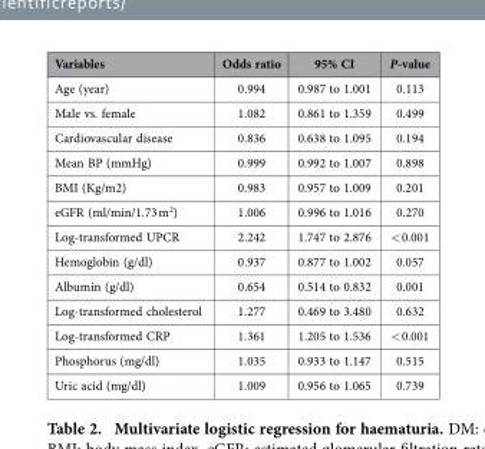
<table><thead><tr><td>Variables</td><td>Odds ratio</td><td>95% CI</td><td>P-value</td></tr></thead><tbody><tr><td>Age (year)</td><td>0.994</td><td>0.987 to 1.001</td><td>0.113</td></tr><tr><td>Male vs. female</td><td>1.082</td><td>0.861 to 1.359</td><td>0.499</td></tr><tr><td>Cardiovascular disease</td><td>0.836</td><td>0.638 to 1.095</td><td>0.194</td></tr><tr><td>Mean BP (mmHg)</td><td>0.999</td><td>0.992 to 1.007</td><td>0.898</td></tr><tr><td>BMI (Kg/m2)</td><td>0.983</td><td>0.957 to 1.009</td><td>0.201</td></tr><tr><td>eGFR (ml/min/1.73 m<sup>2</sup>)</td><td>1.006</td><td>0.996 to 1.016</td><td>0.270</td></tr><tr><td>Log-transformed UPCR</td><td>2.242</td><td>1.747 to 2.876</td><td>&lt; 0.001</td></tr><tr><td>Hemoglobin (g/dl)</td><td>0.937</td><td>0.877 to 1.002</td><td>0.057</td></tr><tr><td>Albumin (g/dl)</td><td>0.654</td><td>0.514 to 0.832</td><td>0.001</td></tr><tr><td>Log-transformed cholesterol</td><td>1.277</td><td>0.469 to 3.480</td><td>0.632</td></tr><tr><td>Log-transformed CRP</td><td>1.361</td><td>1.205 to 1.536</td><td>&lt; 0.001</td></tr><tr><td>Phosphorus (mg/dl)</td><td>1.035</td><td>0.933 to 1.147</td><td>0.515</td></tr><tr><td>Uric acid (mg/dl)</td><td>1.009</td><td>0.956 to 1.065</td><td>0.739</td></tr></tbody></table>